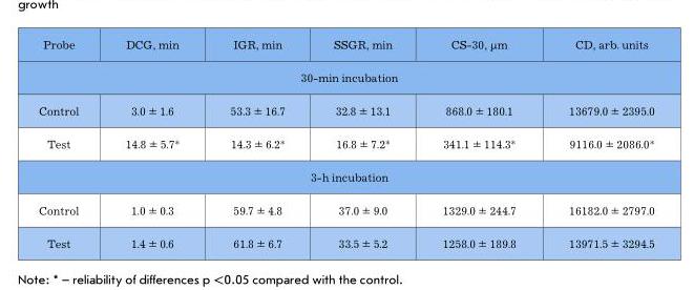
<table><thead><tr><td>Probe</td><td>DcG, min</td><td>IGr, min</td><td>SSGr, min</td><td>cS-30, µm</td><td>cD, arb. units</td></tr></thead><tbody><tr><td colspan="6">30-min incubation</td></tr><tr><td>control</td><td>3.0 ± 1.6</td><td>53.3 ± 16.7</td><td>32.8 ± 13.1</td><td>868.0 ± 180.1</td><td>13679.0 ± 2395.0</td></tr><tr><td>test</td><td>14.8 ± 5.7*</td><td>14.3 ± 6.2*</td><td>16.8 ± 7.2*</td><td>341.1 ± 114.3*</td><td>9116.0 ± 2086.0*</td></tr><tr><td colspan="6">3-h incubation</td></tr><tr><td>control</td><td>1.0 ± 0.3</td><td>59.7 ± 4.8</td><td>37.0 ± 9.0</td><td>1329.0 ± 244.7</td><td>16182.0 ± 2797.0</td></tr><tr><td>test</td><td>1.4 ± 0.6</td><td>61.8 ± 6.7</td><td>33.5 ± 5.2</td><td>1258.0 ± 189.8</td><td>13971.5 ± 3294.5</td></tr></tbody></table>